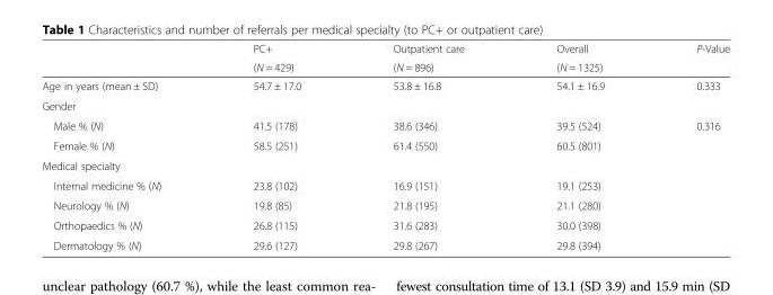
<table><thead><tr><td rowspan="2"></td><td rowspan="2">PC+ (N = 429)</td><td rowspan="2">Outpatient care (N = 896)</td><td rowspan="2">Overall (N = 1325)</td><td rowspan="2">P-Value</td></tr><tr></tr></thead><tbody><tr><td>Age in years (mean ± SD)</td><td>54.7 ± 17.0</td><td>53.8 ± 16.8</td><td>54.1 ± 16.9</td><td>0.333</td></tr><tr><td colspan="5">Gender</td></tr><tr><td>Male % (N)</td><td>41.5 (178)</td><td>38.6 (346)</td><td>39.5 (524)</td><td>0.316</td></tr><tr><td>Female % (N)</td><td>58.5 (251)</td><td>61.4 (550)</td><td>60.5 (801)</td><td></td></tr><tr><td colspan="5">Medical specialty</td></tr><tr><td>Internal medicine % (N)</td><td>23.8 (102)</td><td>16.9 (151)</td><td>19.1 (253)</td><td></td></tr><tr><td>Neurology % (N)</td><td>19.8 (85)</td><td>21.8 (195)</td><td>21.1 (280)</td><td></td></tr><tr><td>Orthopaedics % (N)</td><td>26.8 (115)</td><td>31.6 (283)</td><td>30.0 (398)</td><td></td></tr><tr><td>Dermatology % (N)</td><td>29.6 (127)</td><td>29.8 (267)</td><td>29.8 (394)</td><td></td></tr></tbody></table>